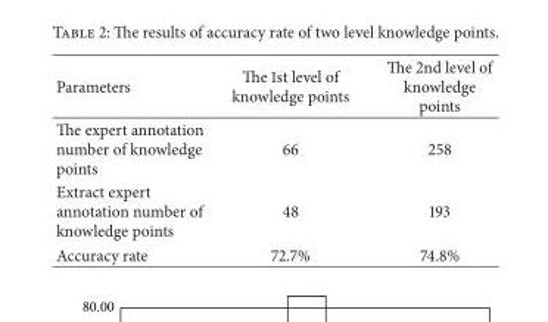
<table><thead><tr><td>Parameters</td><td>The 1st level of knowledge points</td><td>The 2nd level of knowledge points</td></tr></thead><tbody><tr><td>The expert annotation number of knowledge points</td><td>66</td><td>258</td></tr><tr><td>Extract expert annotation number of knowledge points</td><td>48</td><td>193</td></tr><tr><td>Accuracy rate</td><td>72.7%</td><td>74.8%</td></tr></tbody></table>